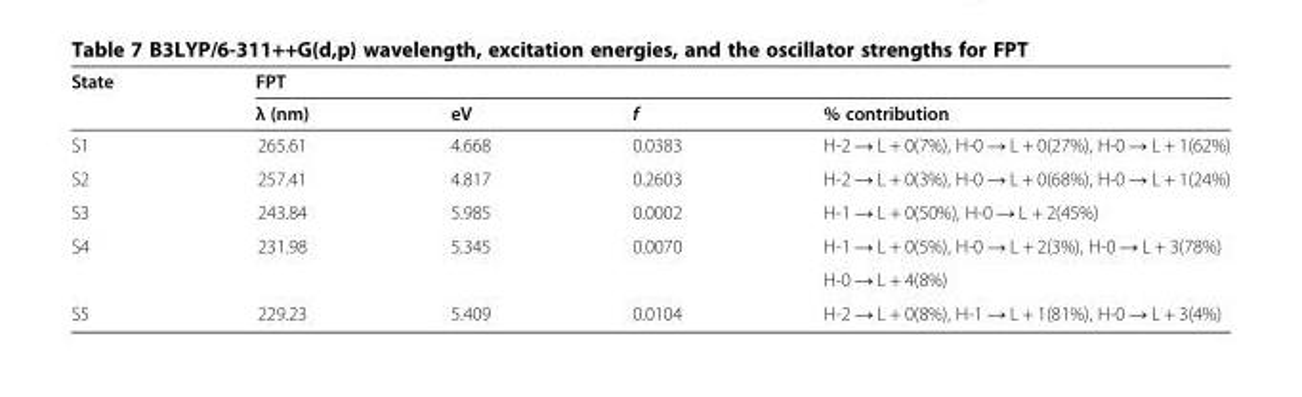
<table><thead><tr><td rowspan="2">State</td><td colspan="4">FPT</td></tr><tr><td>λ (nm)</td><td>eV</td><td>f</td><td>% contribution</td></tr></thead><tbody><tr><td>S1</td><td>265.61</td><td>4.668</td><td>0.0383</td><td>H-2 → L + 0(7%), H-0 → L + 0(27%), H-0 → L + 1(62%)</td></tr><tr><td>S2</td><td>257.41</td><td>4.817</td><td>0.2603</td><td>H-2 → L + 0(3%), H-0 → L + 0(68%), H-0 → L + 1(24%)</td></tr><tr><td>S3</td><td>243.84</td><td>5.985</td><td>0.0002</td><td>H-1 → L + 0(50%), H-0 → L + 2(45%)</td></tr><tr><td rowspan="2">S4</td><td rowspan="2">231.98</td><td rowspan="2">5.345</td><td rowspan="2">0.0070</td><td>H-1 → L + 0(5%), H-0 → L + 2(3%), H-0 → L + 3(78%)</td></tr><tr><td>H-0 → L + 4(8%)</td></tr><tr><td>S5</td><td>229.23</td><td>5.409</td><td>0.0104</td><td>H-2 → L + 0(8%), H-1 → L + 1(81%), H-0 → L + 3(4%)</td></tr></tbody></table>